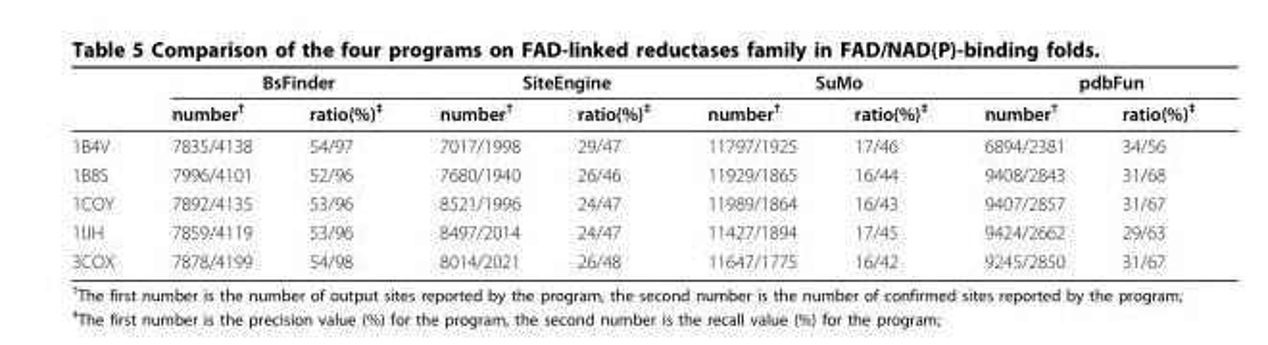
<table><thead><tr><td rowspan="2"></td><td colspan="2">BsFinder</td><td colspan="2">SiteEngine</td><td colspan="2">SuMo</td><td colspan="2">pdbFun</td></tr><tr><td>number<sup>†</sup></td><td>ratio(%)<sup>‡</sup></td><td>number<sup>†</sup></td><td>ratio(%)<sup>‡</sup></td><td>number<sup>†</sup></td><td>ratio(%)<sup>‡</sup></td><td>number<sup>†</sup></td><td>ratio(%)<sup>‡</sup></td></tr></thead><tbody><tr><td>1B4V</td><td>7835/4138</td><td>54/97</td><td>7017/1998</td><td>29/47</td><td>11797/1925</td><td>17/46</td><td>6894/2381</td><td>34/56</td></tr><tr><td>1B8S</td><td>7996/4101</td><td>52/96</td><td>7680/1940</td><td>26/46</td><td>11929/1865</td><td>16/44</td><td>9408/2843</td><td>31/68</td></tr><tr><td>1COY</td><td>7892/4135</td><td>53/96</td><td>8521/1996</td><td>24/47</td><td>11989/1864</td><td>16/43</td><td>9407/2857</td><td>31/67</td></tr><tr><td>1IJH</td><td>7859/4119</td><td>53/96</td><td>8497/2014</td><td>24/47</td><td>11427/1894</td><td>17/45</td><td>9424/2662</td><td>29/63</td></tr><tr><td>3COX</td><td>7878/4199</td><td>54/98</td><td>8014/2021</td><td>26/48</td><td>11647/1775</td><td>16/42</td><td>9245/2850</td><td>31/67</td></tr></tbody></table>